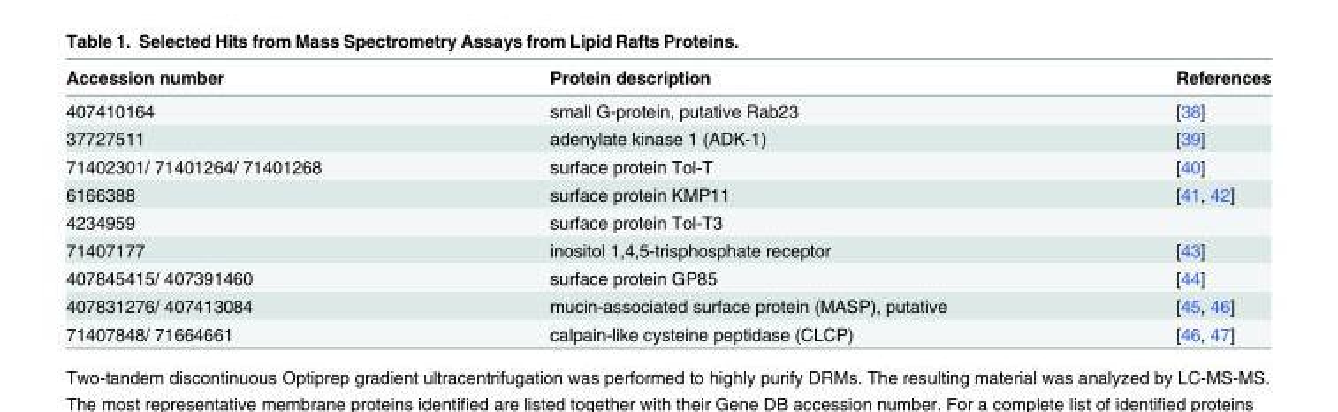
<table><thead><tr><td>Accession number</td><td>Protein description</td><td>References</td></tr></thead><tbody><tr><td>407410164</td><td>small G-protein, putative Rab23</td><td>[38]</td></tr><tr><td>37727511</td><td>adenylate kinase 1 (ADK-1)</td><td>[39]</td></tr><tr><td>71402301/ 71401264/ 71401268</td><td>surface protein Tol-T</td><td>[40]</td></tr><tr><td>6166388</td><td>surface protein KMP11</td><td>[41, 42]</td></tr><tr><td>4234959</td><td>surface protein Tol-T3</td><td></td></tr><tr><td>71407177</td><td>inositol 1,4,5-trisphosphate receptor</td><td>[43]</td></tr><tr><td>407845415/ 407391460</td><td>surface protein GP85</td><td>[44]</td></tr><tr><td>407831276/ 407413084</td><td>mucin-associated surface protein (MASP), putative</td><td>[45, 46]</td></tr><tr><td>71407848/ 71664661</td><td>calpain-like cysteine peptidase (CLCP)</td><td>[46, 47]</td></tr></tbody></table>